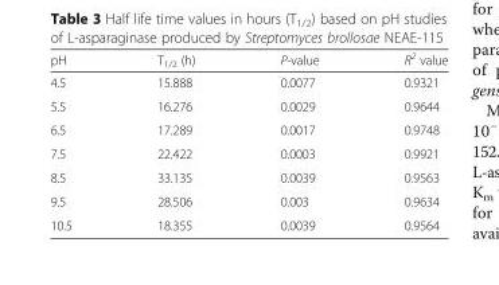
<table><thead><tr><td>pH</td><td>T<sub>1/2</sub> (h)</td><td>P-value</td><td>R<sup>2</sup> value</td></tr></thead><tbody><tr><td>4.5</td><td>15.888</td><td>0.0077</td><td>0.9321</td></tr><tr><td>5.5</td><td>16.276</td><td>0.0029</td><td>0.9644</td></tr><tr><td>6.5</td><td>17.289</td><td>0.0017</td><td>0.9748</td></tr><tr><td>7.5</td><td>22.422</td><td>0.0003</td><td>0.9921</td></tr><tr><td>8.5</td><td>33.135</td><td>0.0039</td><td>0.9563</td></tr><tr><td>9.5</td><td>28.506</td><td>0.003</td><td>0.9634</td></tr><tr><td>10.5</td><td>18.355</td><td>0.0039</td><td>0.9564</td></tr></tbody></table>